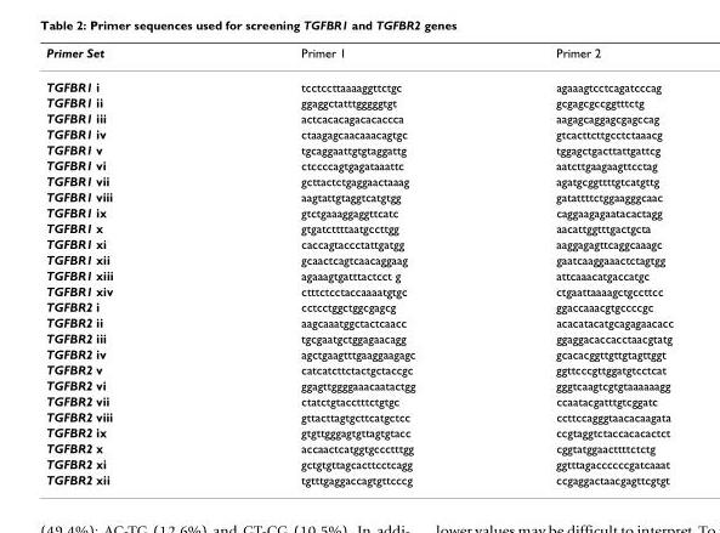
<table><thead><tr><td>Primer Set</td><td>Primer 1</td><td>Primer 2</td></tr></thead><tbody><tr><td>TGFBR1 i</td><td>tcctccttaaaaggttctgc</td><td>agaaagtcctcagatcccag</td></tr><tr><td>TGFBR1 ii</td><td>ggaggctatttgggggtgt</td><td>gcgagcgccggtttctg</td></tr><tr><td>TGFBR1 iii</td><td>actcacacagacacaccca</td><td>aagagcaggagcgagccag</td></tr><tr><td>TGFBR1 iv</td><td>ctaagagcaacaaacagtgc</td><td>gtcacttcttgcctctaaacg</td></tr><tr><td>TGFBR1 v</td><td>tgcaggaattgtgtaggattg</td><td>tggagctgacttattgattcg</td></tr><tr><td>TGFBR1 vi</td><td>ctccccagtgagataaattc</td><td>aatcttgaagaagttcctag</td></tr><tr><td>TGFBR1 vii</td><td>gcttactctgaggaactaaag</td><td>agatgcggttttgtcatgttg</td></tr><tr><td>TGFBR1 viii</td><td>aagtattgtaggtcatgtgg</td><td>gatattttctggaagggcaac</td></tr><tr><td>TGFBR1 ix</td><td>gtctgaaaggaggttcatc</td><td>caggaagagaatacactagg</td></tr><tr><td>TGFBR1 x</td><td>gtgatcttttaatgccttgg</td><td>aacattggtttgactgcta</td></tr><tr><td>TGFBR1 xi</td><td>caccagtaccctattgatgg</td><td>aaggagagttcaggcaaagc</td></tr><tr><td>TGFBR1 xii</td><td>gcaactcagtcaacaggaag</td><td>gaatcaaggaaactctagtgg</td></tr><tr><td>TGFBR1 xiii</td><td>agaaagtgatttactcct g</td><td>attcaaacatgaccatgc</td></tr><tr><td>TGFBR1 xiv</td><td>ctttctcctaccaaaatgtgc</td><td>ctgaattaaaagctgccttcc</td></tr><tr><td>TGFBR2 i</td><td>cctcctggctggcgagcg</td><td>ggaccaaacgtgccccgc</td></tr><tr><td>TGFBR2 ii</td><td>aagcaaatggctactcaacc</td><td>acacatacatgcagagaacacc</td></tr><tr><td>TGFBR2 iii</td><td>tgcgaatgctggagaacagg</td><td>ggaggacaccacctaacgtatg</td></tr><tr><td>TGFBR2 iv</td><td>agctgaagtttgaaggaagagc</td><td>gcacacggttgttgtagttggt</td></tr><tr><td>TGFBR2 v</td><td>catcatcttctactgctaccgc</td><td>ggttcccgttggatgtcctcat</td></tr><tr><td>TGFBR2 vi</td><td>ggagttggggaaacaatactgg</td><td>gggtcaagtcgtgtaaaaaagg</td></tr><tr><td>TGFBR2 vii</td><td>ctatctgtacctttctgtgc</td><td>ccaatacgatttgtcggatc</td></tr><tr><td>TGFBR2 viii</td><td>gttacttagtgcttcatgctcc</td><td>ccttccagggtaacacaagata</td></tr><tr><td>TGFBR2 ix</td><td>gtgttgggagtgttagtgtacc</td><td>ccgtaggtctaccacacactct</td></tr><tr><td>TGFBR2 x</td><td>accaactcatggtgccctttgg</td><td>cggtatggaacttttctctg</td></tr><tr><td>TGFBR2 xi</td><td>gctgtgttagcacttcctcagg</td><td>ggtttagaccccccgatcaaat</td></tr><tr><td>TGFBR2 xii</td><td>tgtttgaggaccagtgttcccg</td><td>ccgaggactaacgagttcgtgt</td></tr></tbody></table>